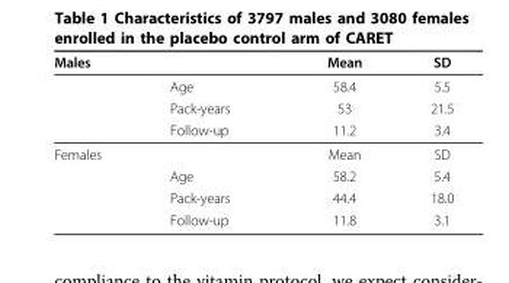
<table><thead><tr><td>Males</td><td></td><td>Mean</td><td>SD</td></tr></thead><tbody><tr><td></td><td>Age</td><td>58.4</td><td>5.5</td></tr><tr><td></td><td>Pack-years</td><td>53</td><td>21.5</td></tr><tr><td></td><td>Follow-up</td><td>11.2</td><td>3.4</td></tr><tr><td rowspan="4">Females</td><td></td><td>Mean</td><td>SD</td></tr><tr><td>Age</td><td>58.2</td><td>5.4</td></tr><tr><td>Pack-years</td><td>44.4</td><td>18.0</td></tr><tr><td>Follow-up</td><td>11.8</td><td>3.1</td></tr></tbody></table>